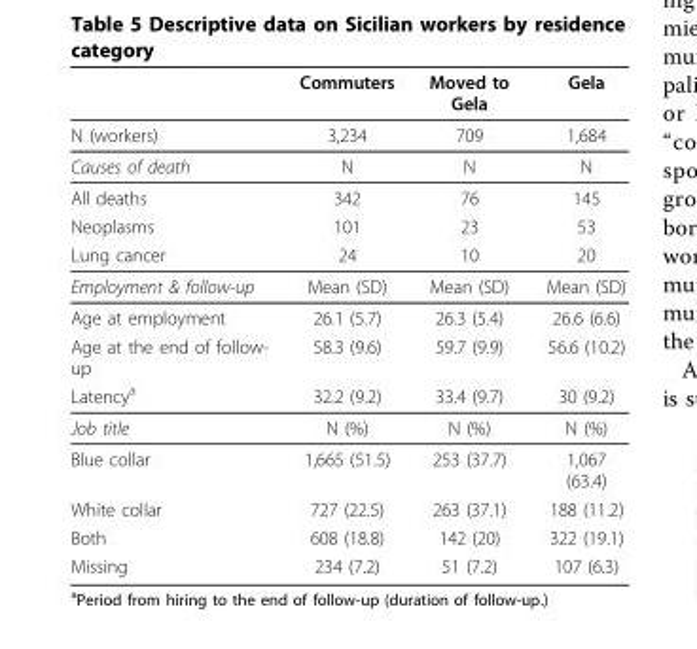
<table><thead><tr><td></td><td>Commuters</td><td>Moved to Gela</td><td>Gela</td></tr></thead><tbody><tr><td>N (workers)</td><td>3,234</td><td>709</td><td>1,684</td></tr><tr><td>Causes of death</td><td>N</td><td>N</td><td>N</td></tr><tr><td>All deaths</td><td>342</td><td>76</td><td>145</td></tr><tr><td>Neoplasms</td><td>101</td><td>23</td><td>53</td></tr><tr><td>Lung cancer</td><td>24</td><td>10</td><td>20</td></tr><tr><td>Employment &amp; follow-up</td><td>Mean (SD)</td><td>Mean (SD)</td><td>Mean (SD)</td></tr><tr><td>Age at employment</td><td>26.1 (5.7)</td><td>26.3 (5.4)</td><td>26.6 (6.6)</td></tr><tr><td>Age at the end of follow- up</td><td>58.3 (9.6)</td><td>59.7 (9.9)</td><td>56.6 (10.2)</td></tr><tr><td>Latency<sup>a</sup></td><td>32.2 (9.2)</td><td>33.4 (9.7)</td><td>30 (9.2)</td></tr><tr><td>Job title</td><td>N (%)</td><td>N (%)</td><td>N (%)</td></tr><tr><td>Blue collar</td><td>1,665 (51.5)</td><td>253 (37.7)</td><td>1,067 (63.4)</td></tr><tr><td>White collar</td><td>727 (22.5)</td><td>263 (37.1)</td><td>188 (11.2)</td></tr><tr><td>Both</td><td>608 (18.8)</td><td>142 (20)</td><td>322 (19.1)</td></tr><tr><td>Missing</td><td>234 (7.2)</td><td>51 (7.2)</td><td>107 (6.3)</td></tr></tbody></table>